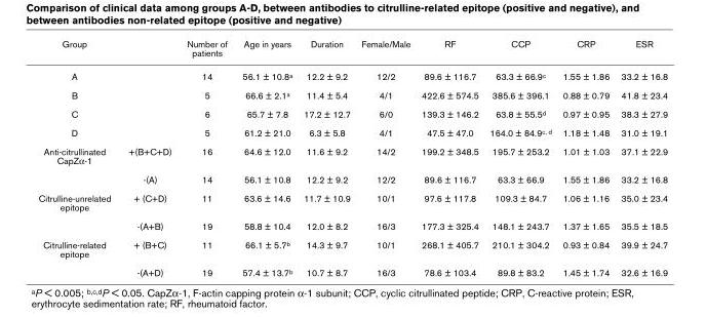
<table><thead><tr><td>Group</td><td></td><td>Number of patients</td><td>Age in years</td><td>Duration</td><td>Female/Male</td><td>RF</td><td>CCP</td><td>CRP</td><td>ESR</td></tr></thead><tbody><tr><td>A</td><td></td><td>14</td><td>56.1 ± 10.8a</td><td>12.2 ± 9.2</td><td>12/2</td><td>89.6 ± 116.7</td><td>63.3 ± 66.9c</td><td>1.55 ± 1.86</td><td>33.2 ± 16.8</td></tr><tr><td>B</td><td></td><td>5</td><td>66.6 ± 2.1a</td><td>11.4 ± 5.4</td><td>4/1</td><td>422.6 ± 574.5</td><td>385.6 ± 396.1</td><td>0.88 ± 0.79</td><td>41.8 ± 23.4</td></tr><tr><td>C</td><td></td><td>6</td><td>65.7 ± 7.8</td><td>17.2 ± 12.7</td><td>6/0</td><td>139.3 ± 146.2</td><td>63.8 ± 55.5d</td><td>0.97 ± 0.95</td><td>38.3 ± 27.9</td></tr><tr><td>D</td><td></td><td>5</td><td>61.2 ± 21.0</td><td>6.3 ± 5.8</td><td>4/1</td><td>47.5 ± 47.0</td><td>164.0 ± 84.9c, d</td><td>1.18 ± 1.48</td><td>31.0 ± 19.1</td></tr><tr><td rowspan="2">Anti-citrullinated CapZα-1</td><td>+(B+C+D)</td><td>16</td><td>64.6 ± 12.0</td><td>11.6 ± 9.2</td><td>14/2</td><td>199.2 ± 348.5</td><td>195.7 ± 253.2</td><td>1.01 ± 1.03</td><td>37.1 ± 22.9</td></tr><tr><td>-(A)</td><td>14</td><td>56.1 ± 10.8</td><td>12.2 ± 9.2</td><td>12/2</td><td>89.6 ± 116.7</td><td>63.3 ± 66.9</td><td>1.55 ± 1.86</td><td>33.2 ± 16.8</td></tr><tr><td rowspan="2">Citrulline-unrelated epitope</td><td>+ (C+D)</td><td>11</td><td>63.6 ± 14.6</td><td>11.7 ± 10.9</td><td>10/1</td><td>97.6 ± 117.8</td><td>109.3 ± 84.7</td><td>1.06 ± 1.16</td><td>35.0 ± 23.4</td></tr><tr><td>-(A+B)</td><td>19</td><td>58.8 ± 10.4</td><td>12.0 ± 8.2</td><td>16/3</td><td>177.3 ± 325.4</td><td>148.1 ± 243.7</td><td>1.37 ± 1.65</td><td>35.5 ± 18.5</td></tr><tr><td rowspan="2">Citrulline-related epitope</td><td>+ (B+C)</td><td>11</td><td>66.1 ± 5.7b</td><td>14.3 ± 9.7</td><td>10/1</td><td>268.1 ± 405.7</td><td>210.1 ± 304.2</td><td>0.93 ± 0.84</td><td>39.9 ± 24.7</td></tr><tr><td>-(A+D)</td><td>19</td><td>57.4 ± 13.7b</td><td>10.7 ± 8.7</td><td>16/3</td><td>78.6 ± 103.4</td><td>89.8 ± 83.2</td><td>1.45 ± 1.74</td><td>32.6 ± 16.9</td></tr></tbody></table>